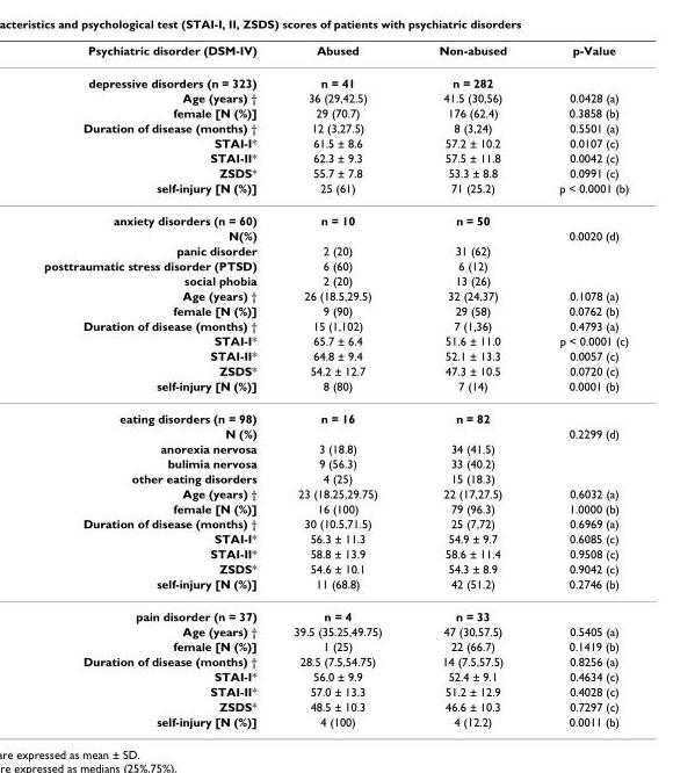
<table><thead><tr><td>Psychiatric disorder (DSM-IV)</td><td>Abused</td><td>Non-abused</td><td>p-Value</td></tr></thead><tbody><tr><td>depressive disorders (n = 323)</td><td>n = 41</td><td>n = 282</td><td></td></tr><tr><td>Age (years) †</td><td>36 (29,42.5)</td><td>41.5 (30,56)</td><td>0.0428 (a)</td></tr><tr><td>female [N (%)]</td><td>29 (70.7)</td><td>176 (62.4)</td><td>0.3858 (b)</td></tr><tr><td>Duration of disease (months) †</td><td>12 (3,27.5)</td><td>8 (3,24)</td><td>0.5501 (a)</td></tr><tr><td>STAI-I*</td><td>61.5 ± 8.6</td><td>57.2 ± 10.2</td><td>0.0107 (c)</td></tr><tr><td>STAI-II*</td><td>62.3 ± 9.3</td><td>57.5 ± 11.8</td><td>0.0042 (c)</td></tr><tr><td>ZSDS*</td><td>55.7 ± 7.8</td><td>53.3 ± 8.8</td><td>0.0991 (c)</td></tr><tr><td>self-injury [N (%)]</td><td>25 (61)</td><td>71 (25.2)</td><td>p &lt; 0.0001 (b)</td></tr><tr><td>anxiety disorders (n = 60)</td><td>n = 10</td><td>n = 50</td><td></td></tr><tr><td>N(%)</td><td></td><td></td><td>0.0020 (d)</td></tr><tr><td>panic disorder</td><td>2 (20)</td><td>31 (62)</td><td></td></tr><tr><td>posttraumatic stress disorder (PTSD)</td><td>6 (60)</td><td>6 (12)</td><td></td></tr><tr><td>social phobia</td><td>2 (20)</td><td>13 (26)</td><td></td></tr><tr><td>Age (years) †</td><td>26 (18.5,29.5)</td><td>32 (24,37)</td><td>0.1078 (a)</td></tr><tr><td>female [N (%)]</td><td>9 (90)</td><td>29 (58)</td><td>0.0762 (b)</td></tr><tr><td>Duration of disease (months) †</td><td>15 (1,102)</td><td>7 (1,36)</td><td>0.4793 (a)</td></tr><tr><td>STAI-I*</td><td>65.7 ± 6.4</td><td>51.6 ± 11.0</td><td>p &lt; 0.0001 (c)</td></tr><tr><td>STAI-II*</td><td>64.8 ± 9.4</td><td>52.1 ± 13.3</td><td>0.0057 (c)</td></tr><tr><td>ZSDS*</td><td>54.2 ± 12.7</td><td>47.3 ± 10.5</td><td>0.0720 (c)</td></tr><tr><td>self-injury [N (%)]</td><td>8 (80)</td><td>7 (14)</td><td>0.0001 (b)</td></tr><tr><td>eating disorders (n = 98)</td><td>n = 16</td><td>n = 82</td><td></td></tr><tr><td>N (%)</td><td></td><td></td><td>0.2299 (d)</td></tr><tr><td>anorexia nervosa</td><td>3 (18.8)</td><td>34 (41.5)</td><td></td></tr><tr><td>bulimia nervosa</td><td>9 (56.3)</td><td>33 (40.2)</td><td></td></tr><tr><td>other eating disorders</td><td>4 (25)</td><td>15 (18.3)</td><td></td></tr><tr><td>Age (years) †</td><td>23 (18.25,29.75)</td><td>22 (17,27.5)</td><td>0.6032 (a)</td></tr><tr><td>female [N (%)]</td><td>16 (100)</td><td>79 (96.3)</td><td>1.0000 (b)</td></tr><tr><td>Duration of disease (months) †</td><td>30 (10.5,71.5)</td><td>25 (7,72)</td><td>0.6969 (a)</td></tr><tr><td>STAI-I*</td><td>56.3 ± 11.3</td><td>54.9 ± 9.7</td><td>0.6085 (c)</td></tr><tr><td>STAI-II*</td><td>58.8 ± 13.9</td><td>58.6 ± 11.4</td><td>0.9508 (c)</td></tr><tr><td>ZSDS*</td><td>54.6 ± 10.1</td><td>54.3 ± 8.9</td><td>0.9042 (c)</td></tr><tr><td>self-injury [N (%)]</td><td>11 (68.8)</td><td>42 (51.2)</td><td>0.2746 (b)</td></tr><tr><td>pain disorder (n = 37)</td><td>n = 4</td><td>n = 33</td><td></td></tr><tr><td>Age (years) †</td><td>39.5 (35.25,49.75)</td><td>47 (30,57.5)</td><td>0.5405 (a)</td></tr><tr><td>female [N (%)]</td><td>1 (25)</td><td>22 (66.7)</td><td>0.1419 (b)</td></tr><tr><td>Duration of disease (months) †</td><td>28.5 (7.5,54.75)</td><td>14 (7.5,57.5)</td><td>0.8256 (a)</td></tr><tr><td>STAI-I*</td><td>56.0 ± 9.9</td><td>52.4 ± 9.1</td><td>0.4634 (c)</td></tr><tr><td>STAI-II*</td><td>57.0 ± 13.3</td><td>51.2 ± 12.9</td><td>0.4028 (c)</td></tr><tr><td>ZSDS*</td><td>48.5 ± 10.3</td><td>46.6 ± 10.3</td><td>0.7297 (c)</td></tr><tr><td>self-injury [N (%)]</td><td>4 (100)</td><td>4 (12.2)</td><td>0.0011 (b)</td></tr></tbody></table>